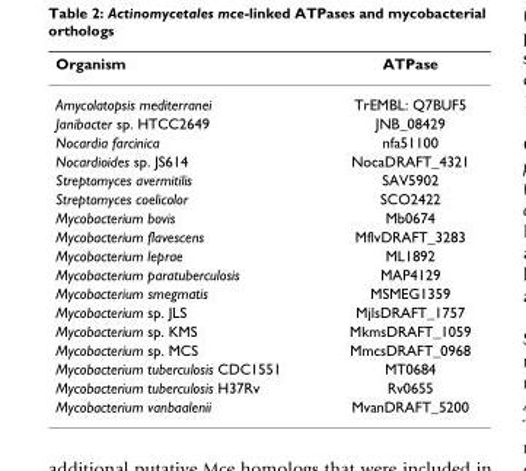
<table><thead><tr><td>Organism</td><td>ATPase</td></tr></thead><tbody><tr><td>Amycolatopsis mediterranei</td><td>TrEMBL: Q7BUF5</td></tr><tr><td>Janibacter sp. HTCC2649</td><td>JNB_08429</td></tr><tr><td>Nocardia farcinica</td><td>nfa51100</td></tr><tr><td>Nocardioides sp. JS614</td><td>NocaDRAFT_4321</td></tr><tr><td>Streptomyces avermitilis</td><td>SAV5902</td></tr><tr><td>Streptomyces coelicolor</td><td>SCO2422</td></tr><tr><td>Mycobacterium bovis</td><td>Mb0674</td></tr><tr><td>Mycobacterium flavescens</td><td>MflvDRAFT_3283</td></tr><tr><td>Mycobacterium leprae</td><td>ML1892</td></tr><tr><td>Mycobacterium paratuberculosis</td><td>MAP4129</td></tr><tr><td>Mycobacterium smegmatis</td><td>MSMEG1359</td></tr><tr><td>Mycobacterium sp. JLS</td><td>MjlsDRAFT_1757</td></tr><tr><td>Mycobacterium sp. KMS</td><td>MkmsDRAFT_1059</td></tr><tr><td>Mycobacterium sp. MCS</td><td>MmcsDRAFT_0968</td></tr><tr><td>Mycobacterium tuberculosis CDC1551</td><td>MT0684</td></tr><tr><td>Mycobacterium tuberculosis H37Rv</td><td>Rv0655</td></tr><tr><td>Mycobacterium vanbaalenii</td><td>MvanDRAFT_5200</td></tr></tbody></table>